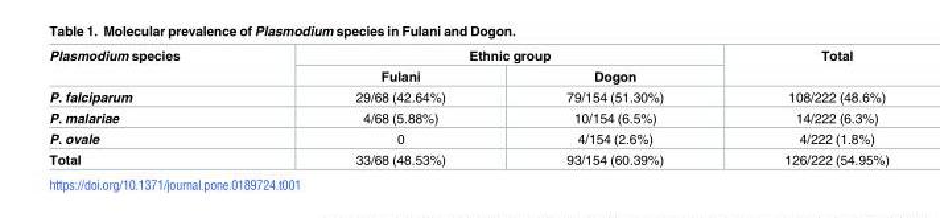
<table><thead><tr><td rowspan="2">Plasmodium species</td><td colspan="2">Ethnic group</td><td rowspan="2">Total</td></tr><tr><td>Fulani</td><td>Dogon</td></tr></thead><tbody><tr><td>P. falciparum</td><td>29/68 (42.64%)</td><td>79/154 (51.30%)</td><td>108/222 (48.6%)</td></tr><tr><td>P. malariae</td><td>4/68 (5.88%)</td><td>10/154 (6.5%)</td><td>14/222 (6.3%)</td></tr><tr><td>P. ovale</td><td>0</td><td>4/154 (2.6%)</td><td>4/222 (1.8%)</td></tr><tr><td>Total</td><td>33/68 (48.53%)</td><td>93/154 (60.39%)</td><td>126/222 (54.95%)</td></tr></tbody></table>